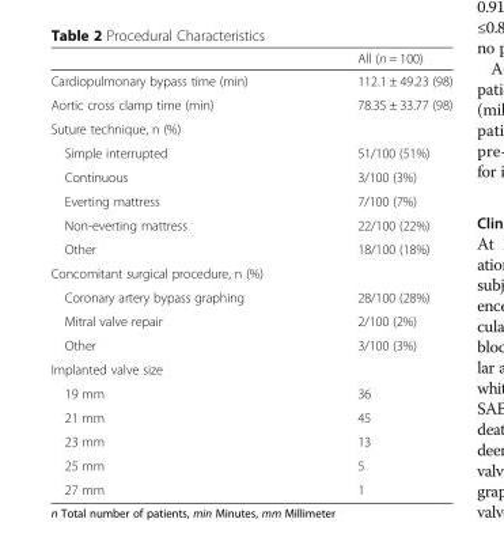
<table><thead><tr><td></td><td>All (n = 100)</td></tr></thead><tbody><tr><td>Cardiopulmonary bypass time (min)</td><td>112.1 ± 49.23 (98)</td></tr><tr><td>Aortic cross clamp time (min)</td><td>78.35 ± 33.77 (98)</td></tr><tr><td colspan="2">Suture technique, n (%)</td></tr><tr><td>Simple interrupted</td><td>51/100 (51%)</td></tr><tr><td>Continuous</td><td>3/100 (3%)</td></tr><tr><td>Everting mattress</td><td>7/100 (7%)</td></tr><tr><td>Non-everting mattress</td><td>22/100 (22%)</td></tr><tr><td>Other</td><td>18/100 (18%)</td></tr><tr><td colspan="2">Concomitant surgical procedure, n (%)</td></tr><tr><td>Coronary artery bypass graphing</td><td>28/100 (28%)</td></tr><tr><td>Mitral valve repair</td><td>2/100 (2%)</td></tr><tr><td>Other</td><td>3/100 (3%)</td></tr><tr><td colspan="2">Implanted valve size</td></tr><tr><td>19 mm</td><td>36</td></tr><tr><td>21 mm</td><td>45</td></tr><tr><td>23 mm</td><td>13</td></tr><tr><td>25 mm</td><td>5</td></tr><tr><td>27 mm</td><td>1</td></tr></tbody></table>